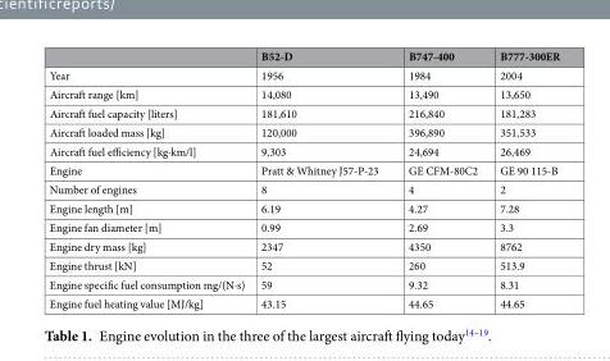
<table><thead><tr><td></td><td>B52-D</td><td>B747-400</td><td>B777-300ER</td></tr></thead><tbody><tr><td>Year</td><td>1956</td><td>1984</td><td>2004</td></tr><tr><td>Aircraft range [km]</td><td>14,080</td><td>13,490</td><td>13,650</td></tr><tr><td>Aircraft fuel capacity [liters]</td><td>181,610</td><td>216,840</td><td>181,283</td></tr><tr><td>Aircraft loaded mass [kg]</td><td>120,000</td><td>396,890</td><td>351,533</td></tr><tr><td>Aircraft fuel efficiency [kg·km/l]</td><td>9,303</td><td>24,694</td><td>26,469</td></tr><tr><td>Engine</td><td>Pratt &amp; Whitney J57-P-23</td><td>GE CFM-80C2</td><td>GE 90 115-B</td></tr><tr><td>Number of engines</td><td>8</td><td>4</td><td>2</td></tr><tr><td>Engine length [m]</td><td>6.19</td><td>4.27</td><td>7.28</td></tr><tr><td>Engine fan diameter [m]</td><td>0.99</td><td>2.69</td><td>3.3</td></tr><tr><td>Engine dry mass [kg]</td><td>2347</td><td>4350</td><td>8762</td></tr><tr><td>Engine thrust [kN]</td><td>52</td><td>260</td><td>513.9</td></tr><tr><td>Engine specific fuel consumption mg/(N·s)</td><td>59</td><td>9.32</td><td>8.31</td></tr><tr><td>Engine fuel heating value [MJ/kg]</td><td>43.15</td><td>44.65</td><td>44.65</td></tr></tbody></table>